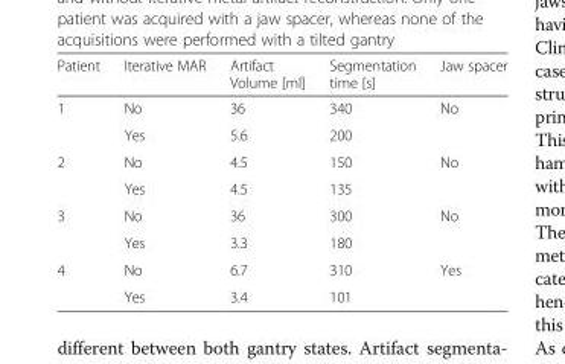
<table><thead><tr><td>Patient</td><td>Iterative MAR</td><td>Artifact Volume [ml]</td><td>Segmentation time [s]</td><td>Jaw spacer</td></tr></thead><tbody><tr><td rowspan="2">1</td><td>No</td><td>36</td><td>340</td><td rowspan="2">No</td></tr><tr><td>Yes</td><td>5.6</td><td>200</td></tr><tr><td rowspan="2">2</td><td>No</td><td>4.5</td><td>150</td><td rowspan="2">No</td></tr><tr><td>Yes</td><td>4.5</td><td>135</td></tr><tr><td rowspan="2">3</td><td>No</td><td>36</td><td>300</td><td rowspan="2">No</td></tr><tr><td>Yes</td><td>3.3</td><td>180</td></tr><tr><td rowspan="2">4</td><td>No</td><td>6.7</td><td>310</td><td rowspan="2">Yes</td></tr><tr><td>Yes</td><td>3.4</td><td>101</td></tr></tbody></table>